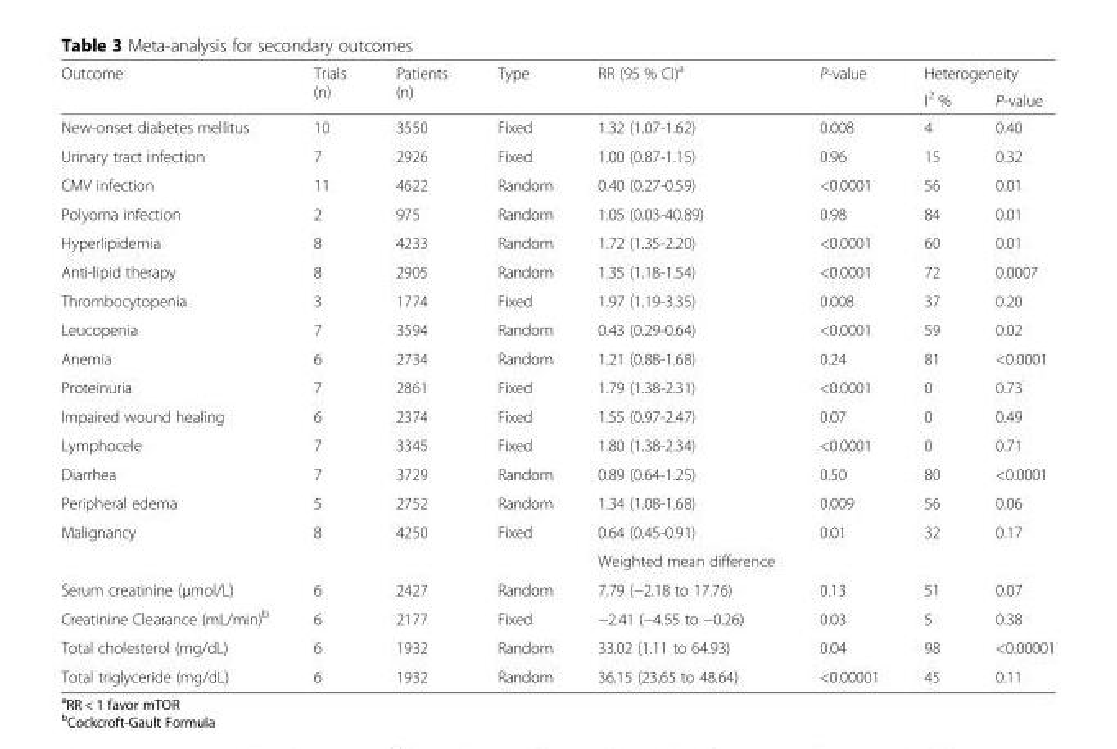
<table><thead><tr><td rowspan="2">Outcome</td><td rowspan="2">Trials (n)</td><td rowspan="2">Patients (n)</td><td rowspan="2">Type</td><td rowspan="2">RR (95 % CI)<sup>a</sup></td><td rowspan="2">P-value</td><td colspan="2">Heterogeneity</td></tr><tr><td>I<sup>2</sup> %</td><td>P-value</td></tr></thead><tbody><tr><td>New-onset diabetes mellitus</td><td>10</td><td>3550</td><td>Fixed</td><td>1.32 (1.07-1.62)</td><td>0.008</td><td>4</td><td>0.40</td></tr><tr><td>Urinary tract infection</td><td>7</td><td>2926</td><td>Fixed</td><td>1.00 (0.87-1.15)</td><td>0.96</td><td>15</td><td>0.32</td></tr><tr><td>CMV infection</td><td>11</td><td>4622</td><td>Random</td><td>0.40 (0.27-0.59)</td><td>&lt;0.0001</td><td>56</td><td>0.01</td></tr><tr><td>Polyoma infection</td><td>2</td><td>975</td><td>Random</td><td>1.05 (0.03-40.89)</td><td>0.98</td><td>84</td><td>0.01</td></tr><tr><td>Hyperlipidemia</td><td>8</td><td>4233</td><td>Random</td><td>1.72 (1.35-2.20)</td><td>&lt;0.0001</td><td>60</td><td>0.01</td></tr><tr><td>Anti-lipid therapy</td><td>8</td><td>2905</td><td>Random</td><td>1.35 (1.18-1.54)</td><td>&lt;0.0001</td><td>72</td><td>0.0007</td></tr><tr><td>Thrombocytopenia</td><td>3</td><td>1774</td><td>Fixed</td><td>1.97 (1.19-3.35)</td><td>0.008</td><td>37</td><td>0.20</td></tr><tr><td>Leucopenia</td><td>7</td><td>3594</td><td>Random</td><td>0.43 (0.29-0.64)</td><td>&lt;0.0001</td><td>59</td><td>0.02</td></tr><tr><td>Anemia</td><td>6</td><td>2734</td><td>Random</td><td>1.21 (0.88-1.68)</td><td>0.24</td><td>81</td><td>&lt;0.0001</td></tr><tr><td>Proteinuria</td><td>7</td><td>2861</td><td>Fixed</td><td>1.79 (1.38-2.31)</td><td>&lt;0.0001</td><td>0</td><td>0.73</td></tr><tr><td>Impaired wound healing</td><td>6</td><td>2374</td><td>Fixed</td><td>1.55 (0.97-2.47)</td><td>0.07</td><td>0</td><td>0.49</td></tr><tr><td>Lymphocele</td><td>7</td><td>3345</td><td>Fixed</td><td>1.80 (1.38-2.34)</td><td>&lt;0.0001</td><td>0</td><td>0.71</td></tr><tr><td>Diarrhea</td><td>7</td><td>3729</td><td>Random</td><td>0.89 (0.64-1.25)</td><td>0.50</td><td>80</td><td>&lt;0.0001</td></tr><tr><td>Peripheral edema</td><td>5</td><td>2752</td><td>Random</td><td>1.34 (1.08-1.68)</td><td>0.009</td><td>56</td><td>0.06</td></tr><tr><td rowspan="2">Malignancy</td><td>8</td><td>4250</td><td>Fixed</td><td>0.64 (0.45-0.91)</td><td>0.01</td><td>32</td><td>0.17</td></tr><tr><td></td><td></td><td></td><td>Weighted mean difference</td><td></td><td></td><td></td></tr><tr><td>Serum creatinine (μmol/L)</td><td>6</td><td>2427</td><td>Random</td><td>7.79 (−2.18 to 17.76)</td><td>0.13</td><td>51</td><td>0.07</td></tr><tr><td>Creatinine Clearance (mL/min)<sup>b</sup></td><td>6</td><td>2177</td><td>Fixed</td><td>−2.41 (−4.55 to −0.26)</td><td>0.03</td><td>5</td><td>0.38</td></tr><tr><td>Total cholesterol (mg/dL)</td><td>6</td><td>1932</td><td>Random</td><td>33.02 (1.11 to 64.93)</td><td>0.04</td><td>98</td><td>&lt;0.00001</td></tr><tr><td>Total triglyceride (mg/dL)</td><td>6</td><td>1932</td><td>Random</td><td>36.15 (23.65 to 48.64)</td><td>&lt;0.00001</td><td>45</td><td>0.11</td></tr></tbody></table>